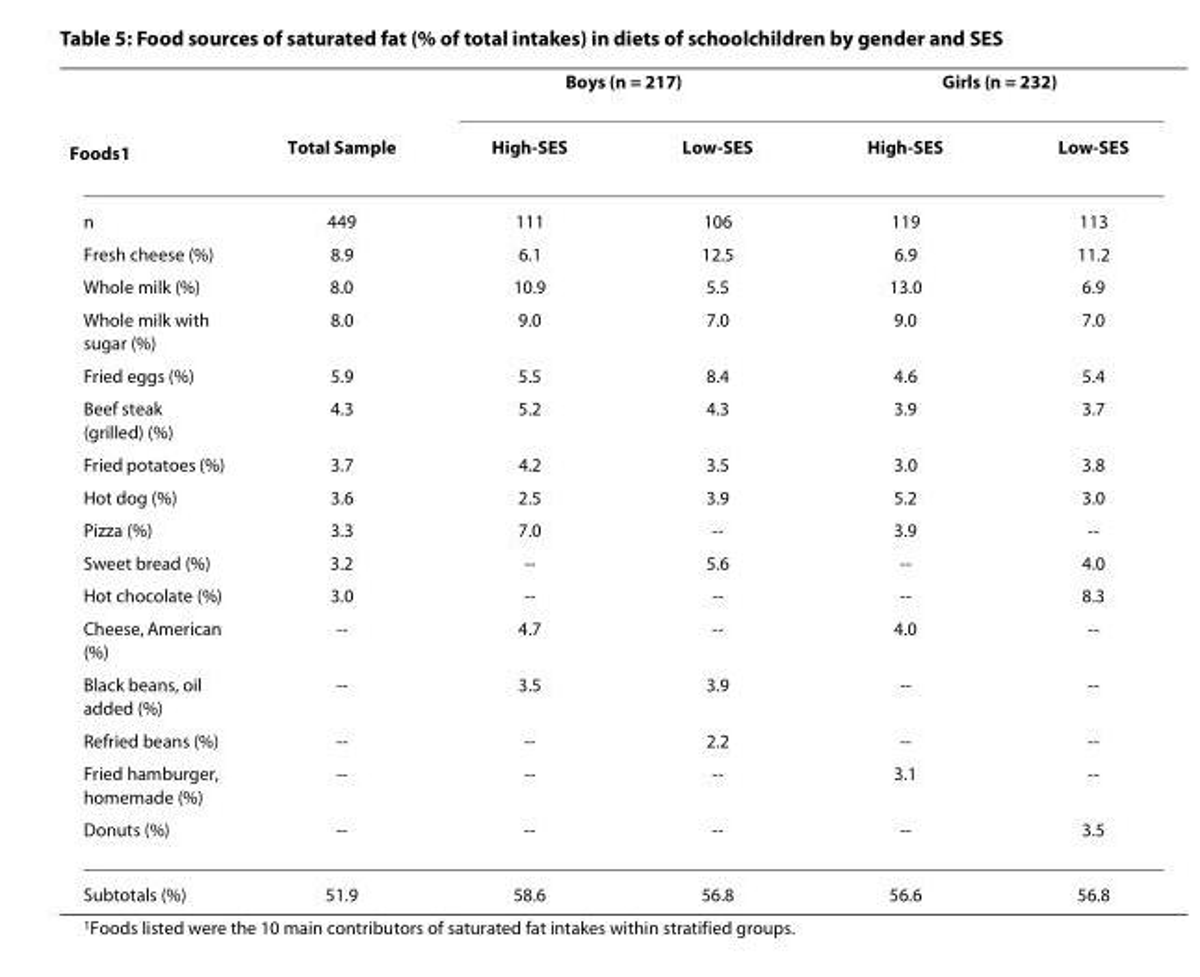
<table><thead><tr><td rowspan="2">Foods<sup>1</sup></td><td rowspan="2">Total Sample</td><td colspan="2">Boys (n = 217)</td><td colspan="2">Girls (n = 232)</td></tr><tr><td>High-SES</td><td>Low-SES</td><td>High-SES</td><td>Low-SES</td></tr></thead><tbody><tr><td>n</td><td>449</td><td>111</td><td>106</td><td>119</td><td>113</td></tr><tr><td>Fresh cheese (%)</td><td>8.9</td><td>6.1</td><td>12.5</td><td>6.9</td><td>11.2</td></tr><tr><td>Whole milk (%)</td><td>8.0</td><td>10.9</td><td>5.5</td><td>13.0</td><td>6.9</td></tr><tr><td>Whole milk with sugar (%)</td><td>8.0</td><td>9.0</td><td>7.0</td><td>9.0</td><td>7.0</td></tr><tr><td>Fried eggs (%)</td><td>5.9</td><td>5.5</td><td>8.4</td><td>4.6</td><td>5.4</td></tr><tr><td>Beef steak (grilled) (%)</td><td>4.3</td><td>5.2</td><td>4.3</td><td>3.9</td><td>3.7</td></tr><tr><td>Fried potatoes (%)</td><td>3.7</td><td>4.2</td><td>3.5</td><td>3.0</td><td>3.8</td></tr><tr><td>Hot dog (%)</td><td>3.6</td><td>2.5</td><td>3.9</td><td>5.2</td><td>3.0</td></tr><tr><td>Pizza (%)</td><td>3.3</td><td>7.0</td><td>--</td><td>3.9</td><td>--</td></tr><tr><td>Sweet bread (%)</td><td>3.2</td><td>--</td><td>5.6</td><td>--</td><td>4.0</td></tr><tr><td>Hot chocolate (%)</td><td>3.0</td><td>--</td><td>--</td><td>--</td><td>8.3</td></tr><tr><td>Cheese, American (%)</td><td>--</td><td>4.7</td><td>--</td><td>4.0</td><td>--</td></tr><tr><td>Black beans, oil added (%)</td><td>--</td><td>3.5</td><td>3.9</td><td>--</td><td>--</td></tr><tr><td>Refried beans (%)</td><td>--</td><td>--</td><td>2.2</td><td>--</td><td>--</td></tr><tr><td>Fried hamburger, homemade (%)</td><td>--</td><td>--</td><td>--</td><td>3.1</td><td>--</td></tr><tr><td>Donuts (%)</td><td>--</td><td>--</td><td>--</td><td>--</td><td>3.5</td></tr><tr><td>Subtotals (%)</td><td>51.9</td><td>58.6</td><td>56.8</td><td>56.6</td><td>56.8</td></tr></tbody></table>